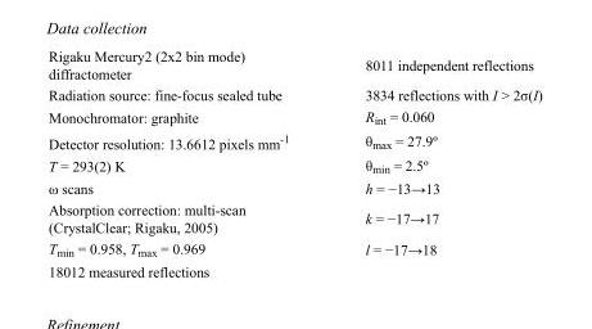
<table><tbody><tr><td>Rigaku Mercury2 (2x2 bin mode) diffractometer</td><td>8011 independent reflections</td></tr><tr><td>Radiation source: fine-focus sealed tube</td><td>3834 reflections with I &gt; 2σ(I)</td></tr><tr><td>Monochromator: graphite</td><td>R<sub>int</sub> = 0.060</td></tr><tr><td>Detector resolution: 13.6612 pixels mm<sup>-1</sup></td><td>θ<sub>max</sub> = 27.9º</td></tr><tr><td>T = 293(2) K</td><td>θ<sub>min</sub> = 2.5º</td></tr><tr><td>ω scans</td><td>h = −13→13</td></tr><tr><td>Absorption correction: multi-scan (CrystalClear; Rigaku, 2005)</td><td>k = −17→17</td></tr><tr><td>T<sub>min</sub> = 0.958, T<sub>max</sub> = 0.969</td><td>l = −17→18</td></tr><tr><td>18012 measured reflections</td><td></td></tr></tbody></table>